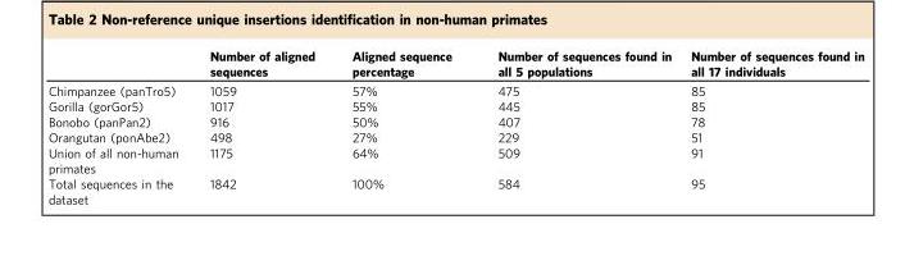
<table><thead><tr><td></td><td>Number of aligned sequences</td><td>Aligned sequence percentage</td><td>Number of sequences found in all 5 populations</td><td>Number of sequences found in all 17 individuals</td></tr></thead><tbody><tr><td>Chimpanzee (panTro5)</td><td>1059</td><td>57%</td><td>475</td><td>85</td></tr><tr><td>Gorilla (gorGor5)</td><td>1017</td><td>55%</td><td>445</td><td>85</td></tr><tr><td>Bonobo (panPan2)</td><td>916</td><td>50%</td><td>407</td><td>78</td></tr><tr><td>Orangutan (ponAbe2)</td><td>498</td><td>27%</td><td>229</td><td>51</td></tr><tr><td>Union of all non-human primates</td><td>1175</td><td>64%</td><td>509</td><td>91</td></tr><tr><td>Total sequences in the dataset</td><td>1842</td><td>100%</td><td>584</td><td>95</td></tr></tbody></table>